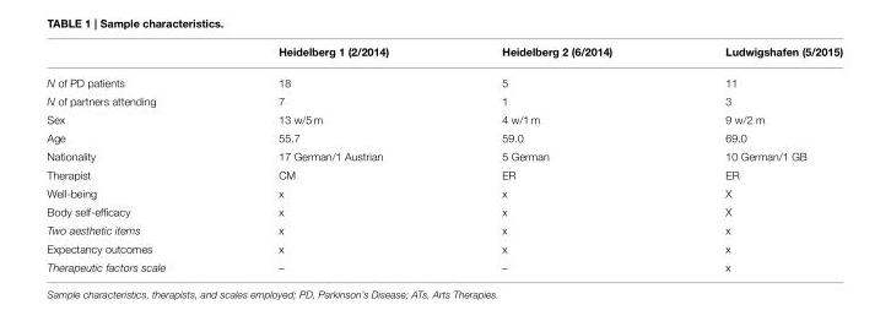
<table><thead><tr><td></td><td>Heidelberg 1 (2/2014)</td><td>Heidelberg 2 (6/2014)</td><td>Ludwigshafen (5/2015)</td></tr></thead><tbody><tr><td>N of PD patients</td><td>18</td><td>5</td><td>11</td></tr><tr><td>N of partners attending</td><td>7</td><td>1</td><td>3</td></tr><tr><td>Sex</td><td>13 w/5 m</td><td>4 w/1 m</td><td>9 w/2 m</td></tr><tr><td>Age</td><td>55.7</td><td>59.0</td><td>69.0</td></tr><tr><td>Nationality</td><td>17 German/1 Austrian</td><td>5 German</td><td>10 German/1 GB</td></tr><tr><td>Therapist</td><td>CM</td><td>ER</td><td>ER</td></tr><tr><td>Well-being</td><td>x</td><td>x</td><td>X</td></tr><tr><td>Body self-efficacy</td><td>x</td><td>x</td><td>X</td></tr><tr><td>Two aesthetic items</td><td>x</td><td>x</td><td>x</td></tr><tr><td>Expectancy outcomes</td><td>x</td><td>x</td><td>x</td></tr><tr><td>Therapeutic factors scale</td><td>–</td><td>–</td><td>x</td></tr></tbody></table>